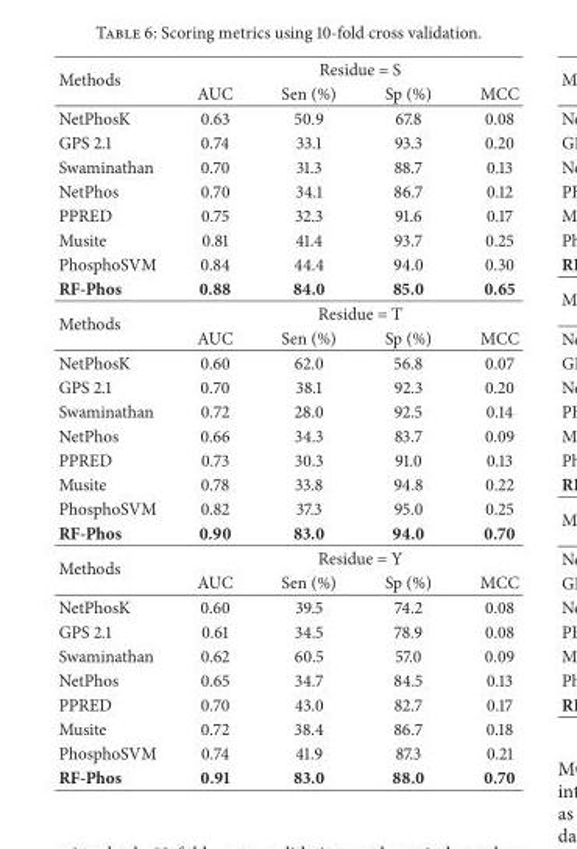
<table><thead><tr><td rowspan="2">Methods</td><td colspan="4">Residue = S</td></tr><tr><td>AUC</td><td>Sen (%)</td><td>Sp (%)</td><td>MCC</td></tr></thead><tbody><tr><td>NetPhosK</td><td>0.63</td><td>50.9</td><td>67.8</td><td>0.08</td></tr><tr><td>GPS 2.1</td><td>0.74</td><td>33.1</td><td>93.3</td><td>0.20</td></tr><tr><td>Swaminathan</td><td>0.70</td><td>31.3</td><td>88.7</td><td>0.13</td></tr><tr><td>NetPhos</td><td>0.70</td><td>34.1</td><td>86.7</td><td>0.12</td></tr><tr><td>PPRED</td><td>0.75</td><td>32.3</td><td>91.6</td><td>0.17</td></tr><tr><td>Musite</td><td>0.81</td><td>41.4</td><td>93.7</td><td>0.25</td></tr><tr><td>PhosphoSVM</td><td>0.84</td><td>44.4</td><td>94.0</td><td>0.30</td></tr><tr><td>RF-Phos</td><td>0.88</td><td>84.0</td><td>85.0</td><td>0.65</td></tr><tr><td rowspan="2">Methods</td><td colspan="4">Residue = T</td></tr><tr><td>AUC</td><td>Sen (%)</td><td>Sp (%)</td><td>MCC</td></tr><tr><td>NetPhosK</td><td>0.60</td><td>62.0</td><td>56.8</td><td>0.07</td></tr><tr><td>GPS 2.1</td><td>0.70</td><td>38.1</td><td>92.3</td><td>0.20</td></tr><tr><td>Swaminathan</td><td>0.72</td><td>28.0</td><td>92.5</td><td>0.14</td></tr><tr><td>NetPhos</td><td>0.66</td><td>34.3</td><td>83.7</td><td>0.09</td></tr><tr><td>PPRED</td><td>0.73</td><td>30.3</td><td>91.0</td><td>0.13</td></tr><tr><td>Musite</td><td>0.78</td><td>33.8</td><td>94.8</td><td>0.22</td></tr><tr><td>PhosphoSVM</td><td>0.82</td><td>37.3</td><td>95.0</td><td>0.25</td></tr><tr><td>RF-Phos</td><td>0.90</td><td>83.0</td><td>94.0</td><td>0.70</td></tr><tr><td rowspan="2">Methods</td><td colspan="4">Residue = Y</td></tr><tr><td>AUC</td><td>Sen (%)</td><td>Sp (%)</td><td>MCC</td></tr><tr><td>NetPhosK</td><td>0.60</td><td>39.5</td><td>74.2</td><td>0.08</td></tr><tr><td>GPS 2.1</td><td>0.61</td><td>34.5</td><td>78.9</td><td>0.08</td></tr><tr><td>Swaminathan</td><td>0.62</td><td>60.5</td><td>57.0</td><td>0.09</td></tr><tr><td>NetPhos</td><td>0.65</td><td>34.7</td><td>84.5</td><td>0.13</td></tr><tr><td>PPRED</td><td>0.70</td><td>43.0</td><td>82.7</td><td>0.17</td></tr><tr><td>Musite</td><td>0.72</td><td>38.4</td><td>86.7</td><td>0.18</td></tr><tr><td>PhosphoSVM</td><td>0.74</td><td>41.9</td><td>87.3</td><td>0.21</td></tr><tr><td>RF-Phos</td><td>0.91</td><td>83.0</td><td>88.0</td><td>0.70</td></tr></tbody></table>